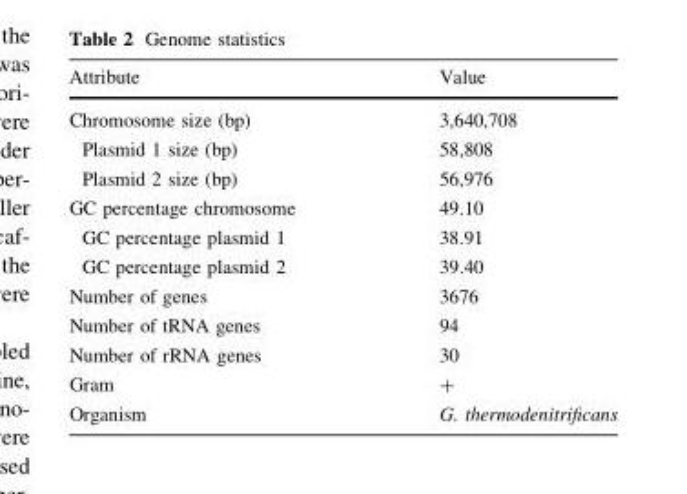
<table><thead><tr><td>Attribute</td><td>Value</td></tr></thead><tbody><tr><td>Chromosome size (bp)</td><td>3,640,708</td></tr><tr><td>Plasmid 1 size (bp)</td><td>58,808</td></tr><tr><td>Plasmid 2 size (bp)</td><td>56,976</td></tr><tr><td>GC percentage chromosome</td><td>49.10</td></tr><tr><td>GC percentage plasmid 1</td><td>38.91</td></tr><tr><td>GC percentage plasmid 2</td><td>39.40</td></tr><tr><td>Number of genes</td><td>3676</td></tr><tr><td>Number of tRNA genes</td><td>94</td></tr><tr><td>Number of rRNA genes</td><td>30</td></tr><tr><td>Gram</td><td>+</td></tr><tr><td>Organism</td><td>G. thermodenitrificans</td></tr></tbody></table>